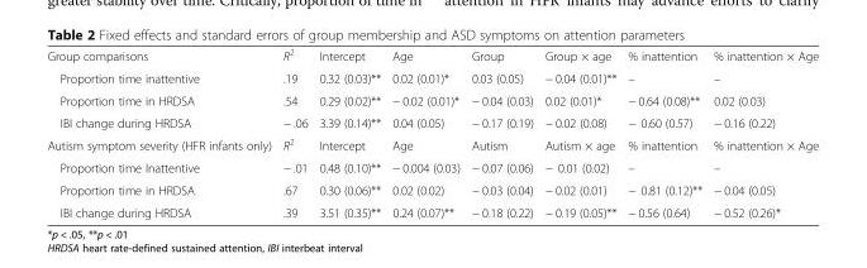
<table><tbody><tr><td>Group comparisons</td><td>R<sup>2</sup></td><td>Intercept</td><td>Age</td><td>Group</td><td>Group × age</td><td>% inattention</td><td>% inattention × Age</td></tr><tr><td>Proportion time inattentive</td><td>.19</td><td>0.32 (0.03)**</td><td>0.02 (0.01)*</td><td>0.03 (0.05)</td><td>− 0.04 (0.01)**</td><td>–</td><td>–</td></tr><tr><td>Proportion time in HRDSA</td><td>.54</td><td>0.29 (0.02)**</td><td>− 0.02 (0.01)*</td><td>− 0.04 (0.03)</td><td>0.02 (0.01)*</td><td>− 0.64 (0.08)**</td><td>0.02 (0.03)</td></tr><tr><td>IBI change during HRDSA</td><td>− .06</td><td>3.39 (0.14)**</td><td>0.04 (0.05)</td><td>− 0.17 (0.19)</td><td>− 0.02 (0.08)</td><td>− 0.60 (0.57)</td><td>− 0.16 (0.22)</td></tr><tr><td>Autism symptom severity (HFR infants only)</td><td>R<sup>2</sup></td><td>Intercept</td><td>Age</td><td>Autism</td><td>Autism × age</td><td>% inattention</td><td>% inattention × Age</td></tr><tr><td>Proportion time Inattentive</td><td>− .01</td><td>0.48 (0.10)**</td><td>− 0.004 (0.03)</td><td>− 0.07 (0.06)</td><td>− 0.01 (0.02)</td><td>–</td><td>–</td></tr><tr><td>Proportion time in HRDSA</td><td>.67</td><td>0.30 (0.06)**</td><td>0.02 (0.02)</td><td>− 0.03 (0.04)</td><td>− 0.02 (0.01)</td><td>− 0.81 (0.12)**</td><td>− 0.04 (0.05)</td></tr><tr><td>IBI change during HRDSA</td><td>.39</td><td>3.51 (0.35)**</td><td>0.24 (0.07)**</td><td>− 0.18 (0.22)</td><td>− 0.19 (0.05)**</td><td>− 0.56 (0.64)</td><td>− 0.52 (0.26)*</td></tr></tbody></table>